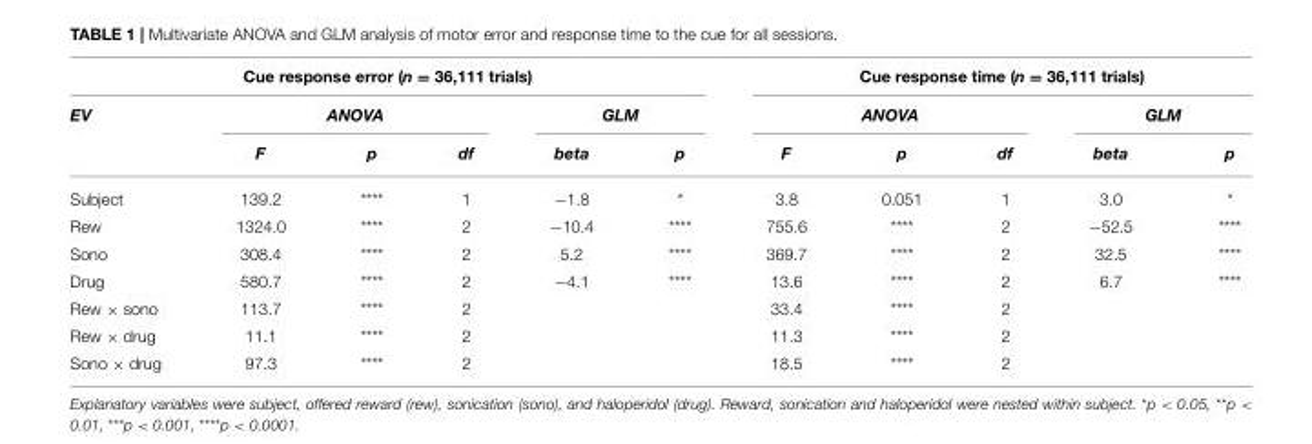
<table><thead><tr><td colspan="6">Cue response error (n = 36,111 trials)</td><td colspan="5">Cue response time (n = 36,111 trials)</td></tr><tr><td rowspan="2">EV</td><td colspan="3">ANOVA</td><td colspan="2">GLM</td><td colspan="3">ANOVA</td><td colspan="2">GLM</td></tr><tr><td>F</td><td>p</td><td>df</td><td>beta</td><td>p</td><td>F</td><td>p</td><td>df</td><td>beta</td><td>p</td></tr></thead><tbody><tr><td>Subject</td><td>139.2</td><td>****</td><td>1</td><td>−1.8</td><td>*</td><td>3.8</td><td>0.051</td><td>1</td><td>3.0</td><td>*</td></tr><tr><td>Rew</td><td>1324.0</td><td>****</td><td>2</td><td>−10.4</td><td>****</td><td>755.6</td><td>****</td><td>2</td><td>−52.5</td><td>****</td></tr><tr><td>Sono</td><td>308.4</td><td>****</td><td>2</td><td>5.2</td><td>****</td><td>369.7</td><td>****</td><td>2</td><td>32.5</td><td>****</td></tr><tr><td>Drug</td><td>580.7</td><td>****</td><td>2</td><td>−4.1</td><td>****</td><td>13.6</td><td>****</td><td>2</td><td>6.7</td><td>****</td></tr><tr><td>Rew × sono</td><td>113.7</td><td>****</td><td>2</td><td></td><td></td><td>33.4</td><td>****</td><td>2</td><td></td><td></td></tr><tr><td>Rew × drug</td><td>11.1</td><td>****</td><td>2</td><td></td><td></td><td>11.3</td><td>****</td><td>2</td><td></td><td></td></tr><tr><td>Sono × drug</td><td>97.3</td><td>****</td><td>2</td><td></td><td></td><td>18.5</td><td>****</td><td>2</td><td></td><td></td></tr></tbody></table>